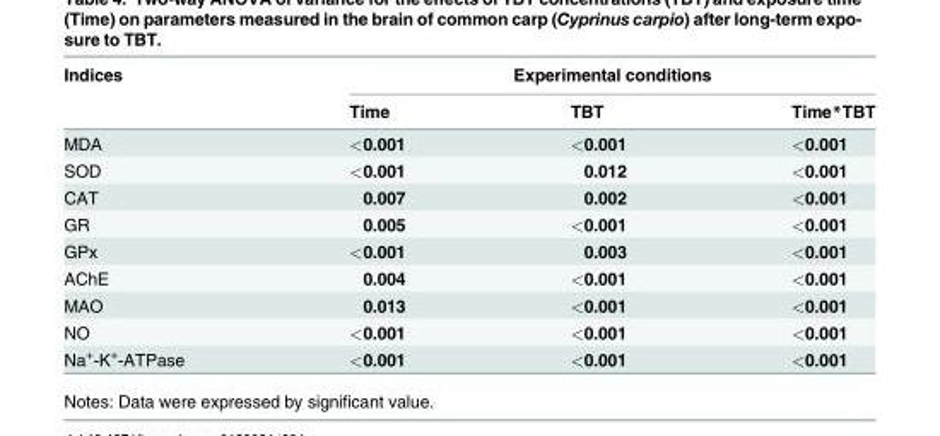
<table><thead><tr><td rowspan="2">Indices</td><td colspan="3">Experimental conditions</td></tr><tr><td>Time</td><td>TBT</td><td>Time*TBT</td></tr></thead><tbody><tr><td>MDA</td><td>&lt;0.001</td><td>&lt;0.001</td><td>&lt;0.001</td></tr><tr><td>SOD</td><td>&lt;0.001</td><td>0.012</td><td>&lt;0.001</td></tr><tr><td>CAT</td><td>0.007</td><td>0.002</td><td>&lt;0.001</td></tr><tr><td>GR</td><td>0.005</td><td>&lt;0.001</td><td>&lt;0.001</td></tr><tr><td>GPx</td><td>&lt;0.001</td><td>0.003</td><td>&lt;0.001</td></tr><tr><td>AChE</td><td>0.004</td><td>&lt;0.001</td><td>&lt;0.001</td></tr><tr><td>MAO</td><td>0.013</td><td>&lt;0.001</td><td>&lt;0.001</td></tr><tr><td>NO</td><td>&lt;0.001</td><td>&lt;0.001</td><td>&lt;0.001</td></tr><tr><td>Na<sup>+</sup>-K<sup>+</sup>-ATPase</td><td>&lt;0.001</td><td>&lt;0.001</td><td>&lt;0.001</td></tr></tbody></table>